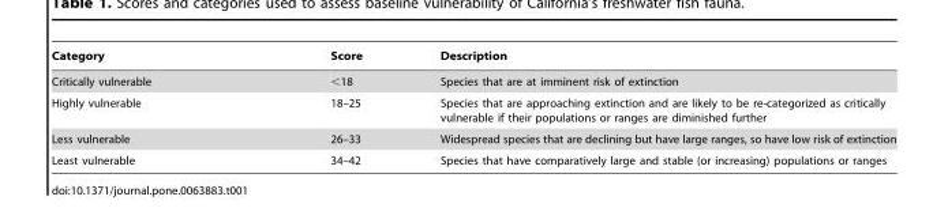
<table><thead><tr><td>Category</td><td>Score</td><td>Description</td></tr></thead><tbody><tr><td>Critically vulnerable</td><td>&lt;18</td><td>Species that are at imminent risk of extinction</td></tr><tr><td>Highly vulnerable</td><td>18–25</td><td>Species that are approaching extinction and are likely to be re-categorized as critically vulnerable if their populations or ranges are diminished further</td></tr><tr><td>Less vulnerable</td><td>26–33</td><td>Widespread species that are declining but have large ranges, so have low risk of extinction</td></tr><tr><td>Least vulnerable</td><td>34–42</td><td>Species that have comparatively large and stable (or increasing) populations or ranges</td></tr></tbody></table>